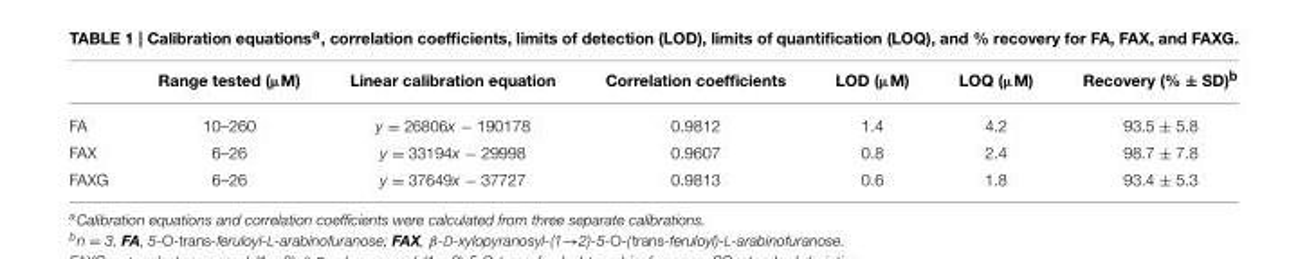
<table><thead><tr><td></td><td>Range tested (µM)</td><td>Linear calibration equation</td><td>Correlation coefficients</td><td>LOD (µM)</td><td>LOQ (µM)</td><td>Recovery (% ± SD)<sup>b</sup></td></tr></thead><tbody><tr><td>FA</td><td>10–260</td><td>y = 26806x − 190178</td><td>0.9812</td><td>1.4</td><td>4.2</td><td>93.5 ± 5.8</td></tr><tr><td>FAX</td><td>6–26</td><td>y = 33194x − 29998</td><td>0.9607</td><td>0.8</td><td>2.4</td><td>98.7 ± 7.8</td></tr><tr><td>FAXG</td><td>6–26</td><td>y = 37649x − 37727</td><td>0.9813</td><td>0.6</td><td>1.8</td><td>93.4 ± 5.3</td></tr></tbody></table>